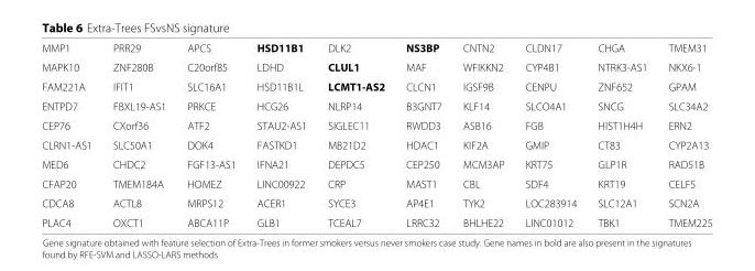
<table><tbody><tr><td>MMP1</td><td>PRR29</td><td>APCS</td><td>HSD11B1</td><td>DLK2</td><td>NS3BP</td><td>CNTN2</td><td>CLDN17</td><td>CHGA</td><td>TMEM31</td></tr><tr><td>MAPK10</td><td>ZNF280B</td><td>C20orf85</td><td>LDHD</td><td>CLUL1</td><td>MAF</td><td>WFIKKN2</td><td>CYP4B1</td><td>NTRK3-AS1</td><td>NKX6-1</td></tr><tr><td>FAM221A</td><td>IFIT1</td><td>SLC16A1</td><td>HSD11B1L</td><td>LCMT1-AS2</td><td>CLCN1</td><td>IGSF9B</td><td>CENPU</td><td>ZNF652</td><td>GPAM</td></tr><tr><td>ENTPD7</td><td>FBXL19-AS1</td><td>PRKCE</td><td>HCG26</td><td>NLRP14</td><td>B3GNT7</td><td>KLF14</td><td>SLCO4A1</td><td>SNCG</td><td>SLC34A2</td></tr><tr><td>CEP76</td><td>CXorf36</td><td>ATF2</td><td>STAU2-AS1</td><td>SIGLEC11</td><td>RWDD3</td><td>ASB16</td><td>FGB</td><td>HIST1H4H</td><td>ERN2</td></tr><tr><td>CLRN1-AS1</td><td>SLC50A1</td><td>DOK4</td><td>FASTKD1</td><td>MB21D2</td><td>HDAC1</td><td>KIF2A</td><td>GMIP</td><td>CT83</td><td>CYP2A13</td></tr><tr><td>MED6</td><td>CHDC2</td><td>FGF13-AS1</td><td>IFNA21</td><td>DEPDC5</td><td>CEP250</td><td>MCM3AP</td><td>KRT75</td><td>GLP1R</td><td>RAD51B</td></tr><tr><td>CFAP20</td><td>TMEM184A</td><td>HOMEZ</td><td>LINC00922</td><td>CRP</td><td>MAST1</td><td>CBL</td><td>SDF4</td><td>KRT19</td><td>CELF5</td></tr><tr><td>CDCA8</td><td>ACTL8</td><td>MRPS12</td><td>ACER1</td><td>SYCE3</td><td>AP4E1</td><td>TYK2</td><td>LOC283914</td><td>SLC12A1</td><td>SCN2A</td></tr><tr><td>PLAC4</td><td>OXCT1</td><td>ABCA11P</td><td>GLB1</td><td>TCEAL7</td><td>LRRC32</td><td>BHLHE22</td><td>LINC01012</td><td>TBK1</td><td>TMEM225</td></tr></tbody></table>